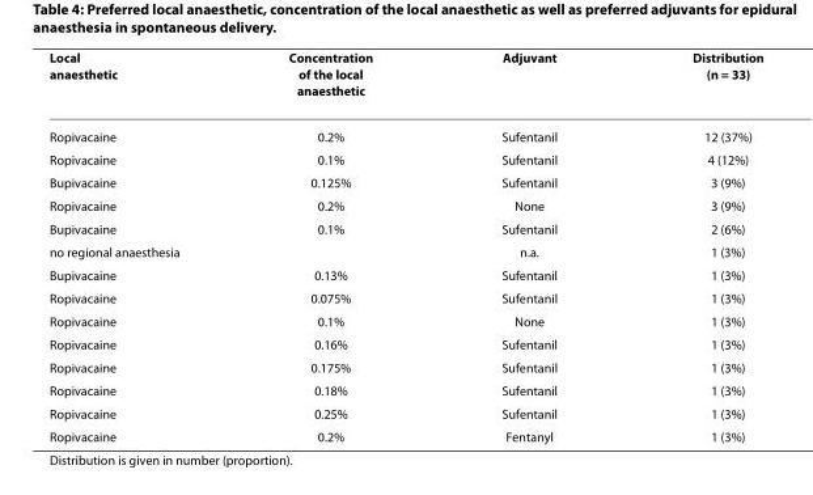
<table><thead><tr><td>Local anaesthetic</td><td>Concentration of the local anaesthetic</td><td>Adjuvant</td><td>Distribution (n = 33)</td></tr></thead><tbody><tr><td>Ropivacaine</td><td>0.2%</td><td>Sufentanil</td><td>12 (37%)</td></tr><tr><td>Ropivacaine</td><td>0.1%</td><td>Sufentanil</td><td>4 (12%)</td></tr><tr><td>Bupivacaine</td><td>0.125%</td><td>Sufentanil</td><td>3 (9%)</td></tr><tr><td>Ropivacaine</td><td>0.2%</td><td>None</td><td>3 (9%)</td></tr><tr><td>Bupivacaine</td><td>0.1%</td><td>Sufentanil</td><td>2 (6%)</td></tr><tr><td>no regional anaesthesia</td><td></td><td>n.a.</td><td>1 (3%)</td></tr><tr><td>Bupivacaine</td><td>0.13%</td><td>Sufentanil</td><td>1 (3%)</td></tr><tr><td>Ropivacaine</td><td>0.075%</td><td>Sufentanil</td><td>1 (3%)</td></tr><tr><td>Ropivacaine</td><td>0.1%</td><td>None</td><td>1 (3%)</td></tr><tr><td>Ropivacaine</td><td>0.16%</td><td>Sufentanil</td><td>1 (3%)</td></tr><tr><td>Ropivacaine</td><td>0.175%</td><td>Sufentanil</td><td>1 (3%)</td></tr><tr><td>Ropivacaine</td><td>0.18%</td><td>Sufentanil</td><td>1 (3%)</td></tr><tr><td>Ropivacaine</td><td>0.25%</td><td>Sufentanil</td><td>1 (3%)</td></tr><tr><td>Ropivacaine</td><td>0.2%</td><td>Fentanyl</td><td>1 (3%)</td></tr></tbody></table>